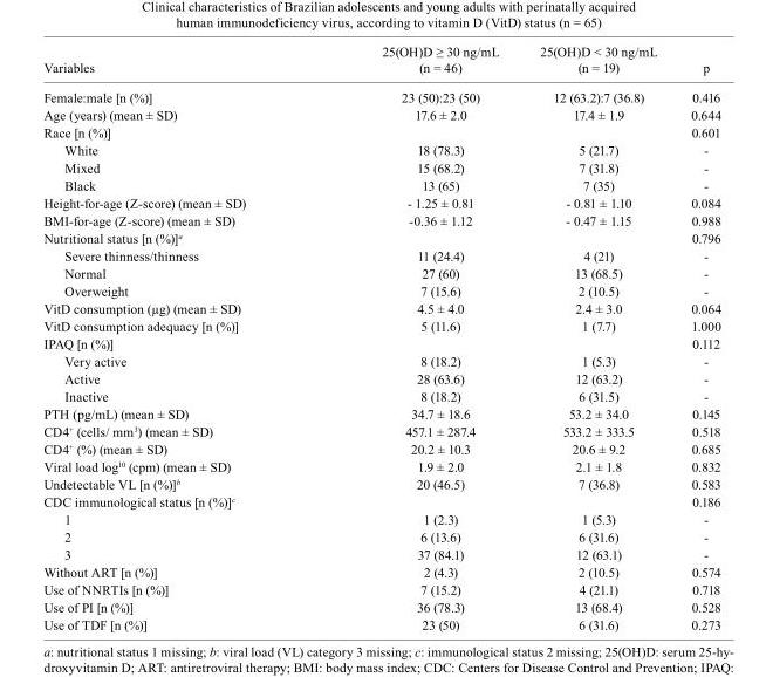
<table><thead><tr><td>Variables</td><td>25(OH)D ≥ 30 ng/mL (n = 46)</td><td>25(OH)D &lt; 30 ng/mL (n = 19)</td><td>p</td></tr></thead><tbody><tr><td>Female:male [n (%)]</td><td>23 (50):23 (50)</td><td>12 (63.2):7 (36.8)</td><td>0.416</td></tr><tr><td>Age (years) (mean ± SD)</td><td>17.6 ± 2.0</td><td>17.4 ± 1.9</td><td>0.644</td></tr><tr><td>Race [n (%)]</td><td></td><td></td><td>0.601</td></tr><tr><td>White</td><td>18 (78.3)</td><td>5 (21.7)</td><td>-</td></tr><tr><td>Mixed</td><td>15 (68.2)</td><td>7 (31.8)</td><td>-</td></tr><tr><td>Black</td><td>13 (65)</td><td>7 (35)</td><td>-</td></tr><tr><td>Height-for-age (Z-score) (mean ± SD)</td><td>- 1.25 ± 0.81</td><td>- 0.81 ± 1.10</td><td>0.084</td></tr><tr><td>BMI-for-age (Z-score) (mean ± SD)</td><td>-0.36 ± 1.12</td><td>- 0.47 ± 1.15</td><td>0.988</td></tr><tr><td>Nutritional status [n (%)]<sup>a</sup></td><td></td><td></td><td>0.796</td></tr><tr><td>Severe thinness/thinness</td><td>11 (24.4)</td><td>4 (21)</td><td>-</td></tr><tr><td>Normal</td><td>27 (60)</td><td>13 (68.5)</td><td>-</td></tr><tr><td>Overweight</td><td>7 (15.6)</td><td>2 (10.5)</td><td>-</td></tr><tr><td>VitD consumption (µg) (mean ± SD)</td><td>4.5 ± 4.0</td><td>2.4 ± 3.0</td><td>0.064</td></tr><tr><td>VitD consumption adequacy [n (%)]</td><td>5 (11.6)</td><td>1 (7.7)</td><td>1.000</td></tr><tr><td>IPAQ [n (%)]</td><td></td><td></td><td>0.112</td></tr><tr><td>Very active</td><td>8 (18.2)</td><td>1 (5.3)</td><td>-</td></tr><tr><td>Active</td><td>28 (63.6)</td><td>12 (63.2)</td><td>-</td></tr><tr><td>Inactive</td><td>8 (18.2)</td><td>6 (31.5)</td><td>-</td></tr><tr><td>PTH (pg/mL) (mean ± SD)</td><td>34.7 ± 18.6</td><td>53.2 ± 34.0</td><td>0.145</td></tr><tr><td>CD4<sup>+</sup> (cells/ mm<sup>3</sup>) (mean ± SD)</td><td>457.1 ± 287.4</td><td>533.2 ± 333.5</td><td>0.518</td></tr><tr><td>CD4<sup>+</sup> (%) (mean ± SD)</td><td>20.2 ± 10.3</td><td>20.6 ± 9.2</td><td>0.685</td></tr><tr><td>Viral load log<sup>10</sup> (cpm) (mean ± SD)</td><td>1.9 ± 2.0</td><td>2.1 ± 1.8</td><td>0.832</td></tr><tr><td>Undetectable VL [n (%)]<sup>b</sup></td><td>20 (46.5)</td><td>7 (36.8)</td><td>0.583</td></tr><tr><td>CDC immunological status [n (%)]<sup>c</sup></td><td></td><td></td><td>0.186</td></tr><tr><td>1</td><td>1 (2.3)</td><td>1 (5.3)</td><td>-</td></tr><tr><td>2</td><td>6 (13.6)</td><td>6 (31.6)</td><td>-</td></tr><tr><td>3</td><td>37 (84.1)</td><td>12 (63.1)</td><td>-</td></tr><tr><td>Without ART [n (%)]</td><td>2 (4.3)</td><td>2 (10.5)</td><td>0.574</td></tr><tr><td>Use of NNRTIs [n (%)]</td><td>7 (15.2)</td><td>4 (21.1)</td><td>0.718</td></tr><tr><td>Use of PI [n (%)]</td><td>36 (78.3)</td><td>13 (68.4)</td><td>0.528</td></tr><tr><td>Use of TDF [n (%)]</td><td>23 (50)</td><td>6 (31.6)</td><td>0.273</td></tr></tbody></table>